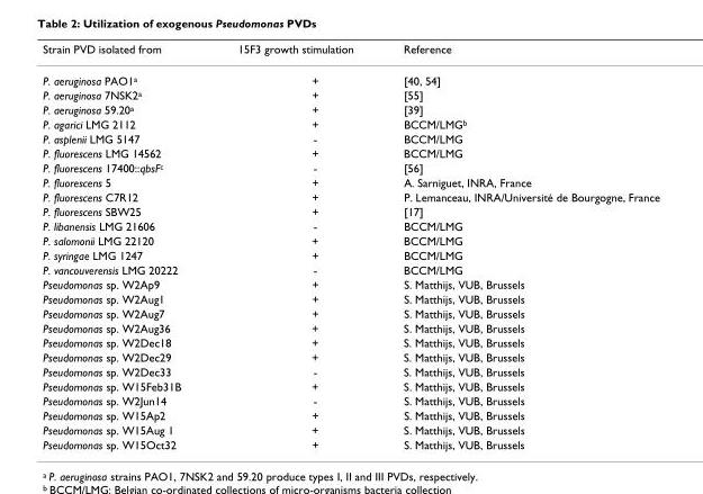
<table><thead><tr><td>Strain PVD isolated from</td><td>15F3 growth stimulation</td><td>Reference</td></tr></thead><tbody><tr><td>P. aeruginosa PAO1<sup>a</sup></td><td>+</td><td>[40, 54]</td></tr><tr><td>P. aeruginosa 7NSK2<sup>a</sup></td><td>+</td><td>[55]</td></tr><tr><td>P. aeruginosa 59.20<sup>a</sup></td><td>+</td><td>[39]</td></tr><tr><td>P. agarici LMG 2112</td><td>+</td><td>BCCM/LMG<sup>b</sup></td></tr><tr><td>P. asplenii LMG 5147</td><td>-</td><td>BCCM/LMG</td></tr><tr><td>P. fluorescens LMG 14562</td><td>+</td><td>BCCM/LMG</td></tr><tr><td>P. fluorescens 17400::qbsF<sup>c</sup></td><td>-</td><td>[56]</td></tr><tr><td>P. fluorescens 5</td><td>+</td><td>A. Sarniguet, INRA, France</td></tr><tr><td>P. fluorescens C7R12</td><td>+</td><td>P. Lemanceau, INRA/Université de Bourgogne, France</td></tr><tr><td>P. fluorescens SBW25</td><td>+</td><td>[17]</td></tr><tr><td>P. libanensis LMG 21606</td><td>-</td><td>BCCM/LMG</td></tr><tr><td>P. salomonii LMG 22120</td><td>+</td><td>BCCM/LMG</td></tr><tr><td>P. syringae LMG 1247</td><td>+</td><td>BCCM/LMG</td></tr><tr><td>P. vancouverensis LMG 20222</td><td>-</td><td>BCCM/LMG</td></tr><tr><td>Pseudomonas sp. W2Ap9</td><td>+</td><td>S. Matthijs, VUB, Brussels</td></tr><tr><td>Pseudomonas sp. W2Aug1</td><td>+</td><td>S. Matthijs, VUB, Brussels</td></tr><tr><td>Pseudomonas sp. W2Aug7</td><td>+</td><td>S. Matthijs, VUB, Brussels</td></tr><tr><td>Pseudomonas sp. W2Aug36</td><td>+</td><td>S. Matthijs, VUB, Brussels</td></tr><tr><td>Pseudomonas sp. W2Dec18</td><td>+</td><td>S. Matthijs, VUB, Brussels</td></tr><tr><td>Pseudomonas sp. W2Dec29</td><td>+</td><td>S. Matthijs, VUB, Brussels</td></tr><tr><td>Pseudomonas sp. W2Dec33</td><td>-</td><td>S. Matthijs, VUB, Brussels</td></tr><tr><td>Pseudomonas sp. W15Feb31B</td><td>+</td><td>S. Matthijs, VUB, Brussels</td></tr><tr><td>Pseudomonas sp. W2Jun14</td><td>-</td><td>S. Matthijs, VUB, Brussels</td></tr><tr><td>Pseudomonas sp. W15Ap2</td><td>+</td><td>S. Matthijs, VUB, Brussels</td></tr><tr><td>Pseudomonas sp. W15Aug 1</td><td>+</td><td>S. Matthijs, VUB, Brussels</td></tr><tr><td>Pseudomonas sp. W15Oct32</td><td>+</td><td>S. Matthijs, VUB, Brussels</td></tr></tbody></table>